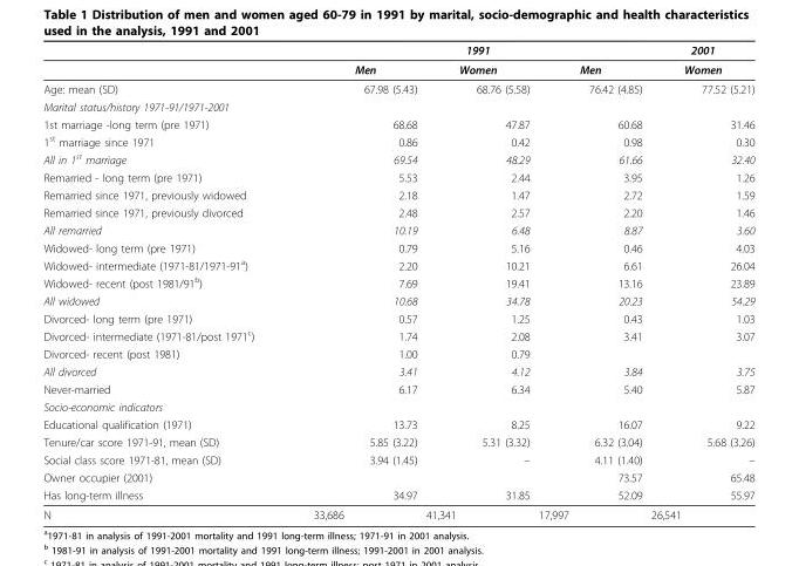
<table><thead><tr><td></td><td></td><td>1991</td><td></td><td>2001</td></tr></thead><tbody><tr><td></td><td>Men</td><td>Women</td><td>Men</td><td>Women</td></tr><tr><td>Age: mean (SD)</td><td>67.98 (5.43)</td><td>68.76 (5.58)</td><td>76.42 (4.85)</td><td>77.52 (5.21)</td></tr><tr><td colspan="5">Marital status/history 1971-91/1971-2001</td></tr><tr><td>1st marriage -long term (pre 1971)</td><td>68.68</td><td>47.87</td><td>60.68</td><td>31.46</td></tr><tr><td>1<sup>st</sup> marriage since 1971</td><td>0.86</td><td>0.42</td><td>0.98</td><td>0.30</td></tr><tr><td>All in 1<sup>st</sup> marriage</td><td>69.54</td><td>48.29</td><td>61.66</td><td>32.40</td></tr><tr><td>Remarried - long term (pre 1971)</td><td>5.53</td><td>2.44</td><td>3.95</td><td>1.26</td></tr><tr><td>Remarried since 1971, previously widowed</td><td>2.18</td><td>1.47</td><td>2.72</td><td>1.59</td></tr><tr><td>Remarried since 1971, previously divorced</td><td>2.48</td><td>2.57</td><td>2.20</td><td>1.46</td></tr><tr><td>All remarried</td><td>10.19</td><td>6.48</td><td>8.87</td><td>3.60</td></tr><tr><td>Widowed- long term (pre 1971)</td><td>0.79</td><td>5.16</td><td>0.46</td><td>4.03</td></tr><tr><td>Widowed- intermediate (1971-81/1971-91<sup>a</sup>)</td><td>2.20</td><td>10.21</td><td>6.61</td><td>26.04</td></tr><tr><td>Widowed- recent (post 1981/91<sup>b</sup>)</td><td>7.69</td><td>19.41</td><td>13.16</td><td>23.89</td></tr><tr><td>All widowed</td><td>10.68</td><td>34.78</td><td>20.23</td><td>54.29</td></tr><tr><td>Divorced- long term (pre 1971)</td><td>0.57</td><td>1.25</td><td>0.43</td><td>1.03</td></tr><tr><td>Divorced- intermediate (1971-81/post 1971<sup>c</sup>)</td><td>1.74</td><td>2.08</td><td>3.41</td><td>3.07</td></tr><tr><td>Divorced- recent (post 1981)</td><td>1.00</td><td>0.79</td><td></td><td></td></tr><tr><td>All divorced</td><td>3.41</td><td>4.12</td><td>3.84</td><td>3.75</td></tr><tr><td>Never-married</td><td>6.17</td><td>6.34</td><td>5.40</td><td>5.87</td></tr><tr><td colspan="5">Socio-economic indicators</td></tr><tr><td>Educational qualification (1971)</td><td>13.73</td><td>8.25</td><td>16.07</td><td>9.22</td></tr><tr><td>Tenure/car score 1971-91, mean (SD)</td><td>5.85 (3.22)</td><td>5.31 (3.32)</td><td>6.32 (3.04)</td><td>5.68 (3.26)</td></tr><tr><td>Social class score 1971-81, mean (SD)</td><td>3.94 (1.45)</td><td>–</td><td>4.11 (1.40)</td><td>–</td></tr><tr><td>Owner occupier (2001)</td><td></td><td></td><td>73.57</td><td>65.48</td></tr><tr><td>Has long-term illness</td><td>34.97</td><td>31.85</td><td>52.09</td><td>55.97</td></tr><tr><td>N</td><td>33,686</td><td>41,341</td><td>17,997</td><td>26,541</td></tr></tbody></table>